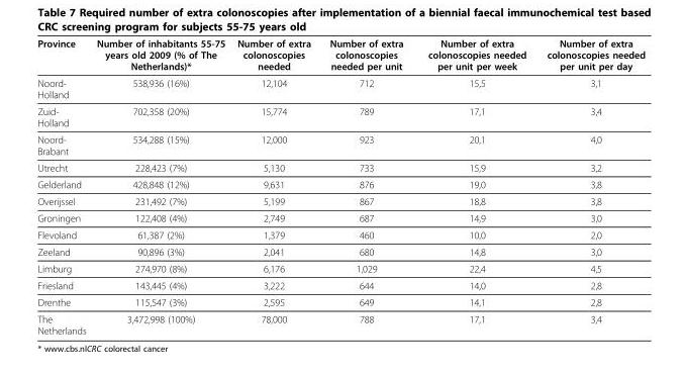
<table><thead><tr><td>Province</td><td>Number of inhabitants 55-75 years old 2009 (% of The Netherlands)*</td><td>Number of extra colonoscopies needed</td><td>Number of extra colonoscopies needed per unit</td><td>Number of extra colonoscopies needed per unit per week</td><td>Number of extra colonoscopies needed per unit per day</td></tr></thead><tbody><tr><td>Noord- Holland</td><td>538,936 (16%)</td><td>12,104</td><td>712</td><td>15,5</td><td>3,1</td></tr><tr><td>Zuid- Holland</td><td>702,358 (20%)</td><td>15,774</td><td>789</td><td>17,1</td><td>3,4</td></tr><tr><td>Noord- Brabant</td><td>534,288 (15%)</td><td>12,000</td><td>923</td><td>20,1</td><td>4,0</td></tr><tr><td>Utrecht</td><td>228,423 (7%)</td><td>5,130</td><td>733</td><td>15,9</td><td>3,2</td></tr><tr><td>Gelderland</td><td>428,848 (12%)</td><td>9,631</td><td>876</td><td>19,0</td><td>3,8</td></tr><tr><td>Overijssel</td><td>231,492 (7%)</td><td>5,199</td><td>867</td><td>18,8</td><td>3,8</td></tr><tr><td>Groningen</td><td>122,408 (4%)</td><td>2,749</td><td>687</td><td>14,9</td><td>3,0</td></tr><tr><td>Flevoland</td><td>61,387 (2%)</td><td>1,379</td><td>460</td><td>10,0</td><td>2,0</td></tr><tr><td>Zeeland</td><td>90,896 (3%)</td><td>2,041</td><td>680</td><td>14,8</td><td>3,0</td></tr><tr><td>Limburg</td><td>274,970 (8%)</td><td>6,176</td><td>1,029</td><td>22,4</td><td>4,5</td></tr><tr><td>Friesland</td><td>143,445 (4%)</td><td>3,222</td><td>644</td><td>14,0</td><td>2,8</td></tr><tr><td>Drenthe</td><td>115,547 (3%)</td><td>2,595</td><td>649</td><td>14,1</td><td>2,8</td></tr><tr><td>The Netherlands</td><td>3,472,998 (100%)</td><td>78,000</td><td>788</td><td>17,1</td><td>3,4</td></tr></tbody></table>